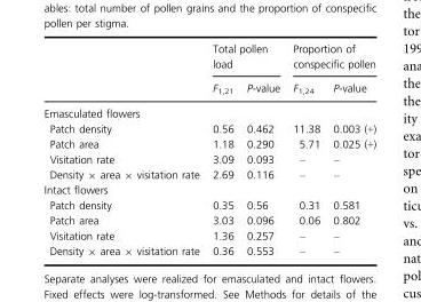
<table><thead><tr><td rowspan="2"></td><td colspan="2">Total pollen load</td><td colspan="2">Proportion of conspecific pollen</td></tr><tr><td>F<sub>1,21</sub></td><td>P-value</td><td>F<sub>1,24</sub></td><td>P-value</td></tr></thead><tbody><tr><td colspan="5">Emasculated flowers</td></tr><tr><td>Patch density</td><td>0.56</td><td>0.462</td><td>11.38</td><td>0.003 (+)</td></tr><tr><td>Patch area</td><td>1.18</td><td>0.290</td><td>5.71</td><td>0.025 (+)</td></tr><tr><td>Visitation rate</td><td>3.09</td><td>0.093</td><td>–</td><td>–</td></tr><tr><td>Density × area × visitation rate</td><td>2.69</td><td>0.116</td><td>–</td><td>–</td></tr><tr><td colspan="5">Intact flowers</td></tr><tr><td>Patch density</td><td>0.35</td><td>0.56</td><td>0.31</td><td>0.581</td></tr><tr><td>Patch area</td><td>3.03</td><td>0.096</td><td>0.06</td><td>0.802</td></tr><tr><td>Visitation rate</td><td>1.36</td><td>0.257</td><td>–</td><td>–</td></tr><tr><td>Density × area × visitation rate</td><td>0.36</td><td>0.553</td><td>–</td><td>–</td></tr></tbody></table>